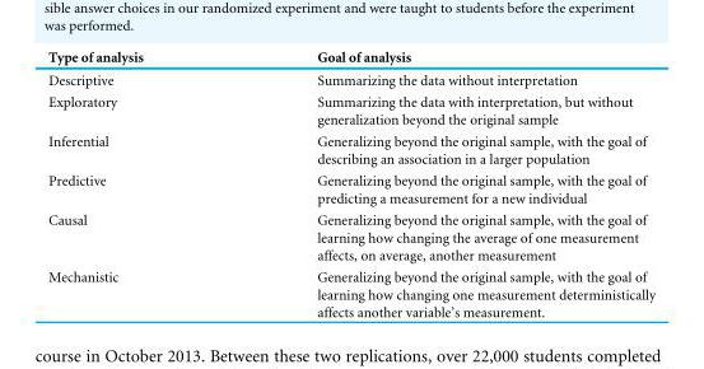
<table><thead><tr><td>Type of analysis</td><td>Goal of analysis</td></tr></thead><tbody><tr><td>Descriptive</td><td>Summarizing the data without interpretation</td></tr><tr><td>Exploratory</td><td>Summarizing the data with interpretation, but without generalization beyond the original sample</td></tr><tr><td>Inferential</td><td>Generalizing beyond the original sample, with the goal of describing an association in a larger population</td></tr><tr><td>Predictive</td><td>Generalizing beyond the original sample, with the goal of predicting a measurement for a new individual</td></tr><tr><td>Causal</td><td>Generalizing beyond the original sample, with the goal of learning how changing the average of one measurement affects, on average, another measurement</td></tr><tr><td>Mechanistic</td><td>Generalizing beyond the original sample, with the goal of learning how changing one measurement deterministically affects another variable’s measurement.</td></tr></tbody></table>